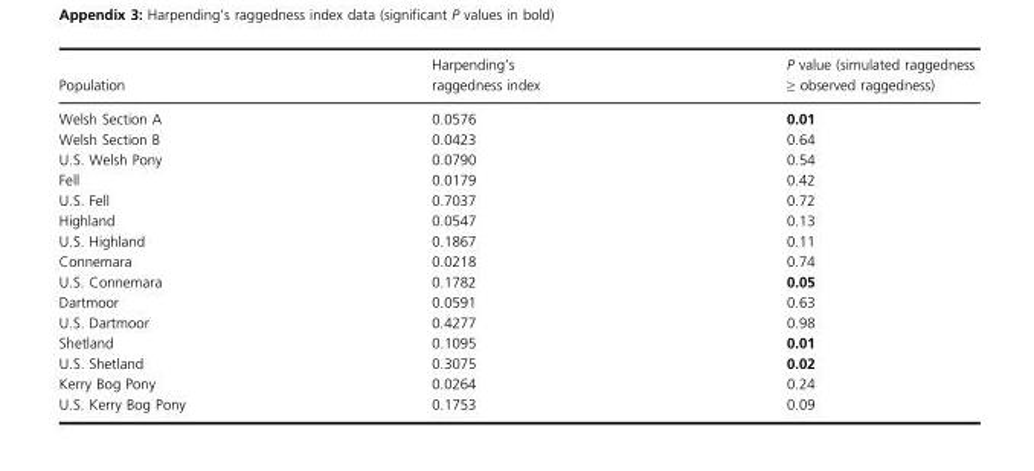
<table><thead><tr><td>Population</td><td>Harpending’s raggedness index</td><td>P value (simulated raggedness ≥ observed raggedness)</td></tr></thead><tbody><tr><td>Welsh Section A</td><td>0.0576</td><td>0.01</td></tr><tr><td>Welsh Section B</td><td>0.0423</td><td>0.64</td></tr><tr><td>U.S. Welsh Pony</td><td>0.0790</td><td>0.54</td></tr><tr><td>Fell</td><td>0.0179</td><td>0.42</td></tr><tr><td>U.S. Fell</td><td>0.7037</td><td>0.72</td></tr><tr><td>Highland</td><td>0.0547</td><td>0.13</td></tr><tr><td>U.S. Highland</td><td>0.1867</td><td>0.11</td></tr><tr><td>Connemara</td><td>0.0218</td><td>0.74</td></tr><tr><td>U.S. Connemara</td><td>0.1782</td><td>0.05</td></tr><tr><td>Dartmoor</td><td>0.0591</td><td>0.63</td></tr><tr><td>U.S. Dartmoor</td><td>0.4277</td><td>0.98</td></tr><tr><td>Shetland</td><td>0.1095</td><td>0.01</td></tr><tr><td>U.S. Shetland</td><td>0.3075</td><td>0.02</td></tr><tr><td>Kerry Bog Pony</td><td>0.0264</td><td>0.24</td></tr><tr><td>U.S. Kerry Bog Pony</td><td>0.1753</td><td>0.09</td></tr></tbody></table>